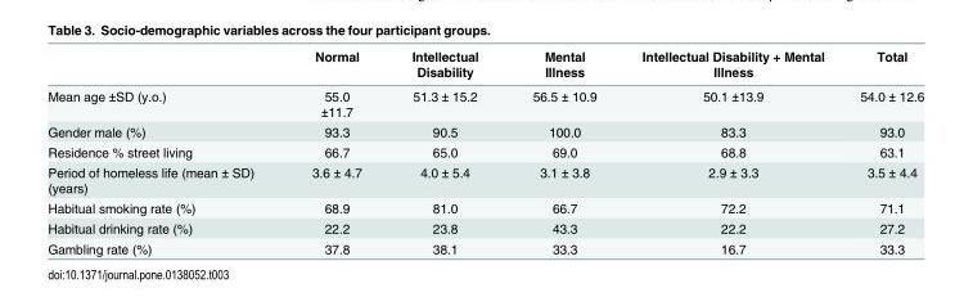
<table><thead><tr><td></td><td>Normal</td><td>Intellectual Disability</td><td>Mental Illness</td><td>Intellectual Disability + Mental Illness</td><td>Total</td></tr></thead><tbody><tr><td>Mean age ±SD (y.o.)</td><td>55.0 ±11.7</td><td>51.3 ± 15.2</td><td>56.5 ± 10.9</td><td>50.1 ±13.9</td><td>54.0 ± 12.6</td></tr><tr><td>Gender male (%)</td><td>93.3</td><td>90.5</td><td>100.0</td><td>83.3</td><td>93.0</td></tr><tr><td>Residence % street living</td><td>66.7</td><td>65.0</td><td>69.0</td><td>68.8</td><td>63.1</td></tr><tr><td>Period of homeless life (mean ± SD) (years)</td><td>3.6 ± 4.7</td><td>4.0 ± 5.4</td><td>3.1 ± 3.8</td><td>2.9 ± 3.3</td><td>3.5 ± 4.4</td></tr><tr><td>Habitual smoking rate (%)</td><td>68.9</td><td>81.0</td><td>66.7</td><td>72.2</td><td>71.1</td></tr><tr><td>Habitual drinking rate (%)</td><td>22.2</td><td>23.8</td><td>43.3</td><td>22.2</td><td>27.2</td></tr><tr><td>Gambling rate (%)</td><td>37.8</td><td>38.1</td><td>33.3</td><td>16.7</td><td>33.3</td></tr></tbody></table>